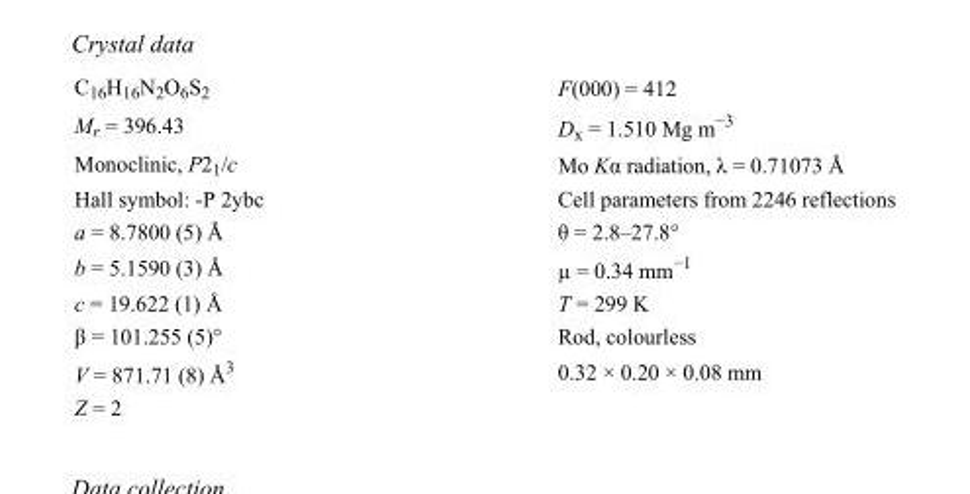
<table><tbody><tr><td>C<sub>16</sub>H<sub>16</sub>N<sub>2</sub>O<sub>6</sub>S<sub>2</sub></td><td>F(000) = 412</td></tr><tr><td>M<sub>r</sub> = 396.43</td><td>D<sub>x</sub> = 1.510 Mg m<sup>−3</sup></td></tr><tr><td>Monoclinic, P2<sub>1</sub>/c</td><td>Mo Kα radiation, λ = 0.71073 Å</td></tr><tr><td>Hall symbol: -P 2ybc</td><td>Cell parameters from 2246 reflections</td></tr><tr><td>a = 8.7800 (5) Å</td><td>θ = 2.8–27.8°</td></tr><tr><td>b = 5.1590 (3) Å</td><td>µ = 0.34 mm<sup>−1</sup></td></tr><tr><td>c = 19.622 (1) Å</td><td>T = 299 K</td></tr><tr><td>β = 101.255 (5)°</td><td>Rod, colourless</td></tr><tr><td>V = 871.71 (8) Å<sup>3</sup></td><td>0.32 × 0.20 × 0.08 mm</td></tr><tr><td>Z = 2</td><td></td></tr></tbody></table>